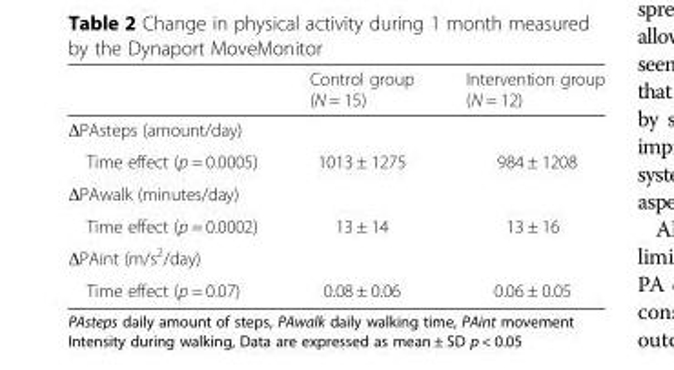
<table><thead><tr><td></td><td>Control group (N = 15)</td><td>Intervention group (N = 12)</td></tr></thead><tbody><tr><td colspan="3">ΔPAsteps (amount/day)</td></tr><tr><td>Time effect (p = 0.0005)</td><td>1013 ± 1275</td><td>984 ± 1208</td></tr><tr><td colspan="3">ΔPAwalk (minutes/day)</td></tr><tr><td>Time effect (p = 0.0002)</td><td>13 ± 14</td><td>13 ± 16</td></tr><tr><td colspan="3">ΔPAint (m/s<sup>2</sup>/day)</td></tr><tr><td>Time effect (p = 0.07)</td><td>0.08 ± 0.06</td><td>0.06 ± 0.05</td></tr></tbody></table>